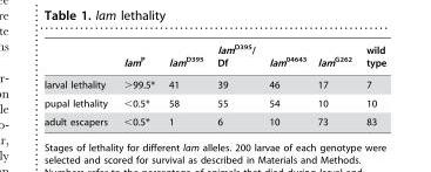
<table><thead><tr><td></td><td>lam<sup>P</sup></td><td>lam<sup>D395</sup></td><td>lam<sup>D395</sup>/ Df</td><td>lam<sup>04643</sup></td><td>lam<sup>G262</sup></td><td>wild type</td></tr></thead><tbody><tr><td>larval lethality</td><td>&gt;99.5*</td><td>41</td><td>39</td><td>46</td><td>17</td><td>7</td></tr><tr><td>pupal lethality</td><td>&lt;0.5*</td><td>58</td><td>55</td><td>54</td><td>10</td><td>10</td></tr><tr><td>adult escapers</td><td>&lt;0.5*</td><td>1</td><td>6</td><td>10</td><td>73</td><td>83</td></tr></tbody></table>